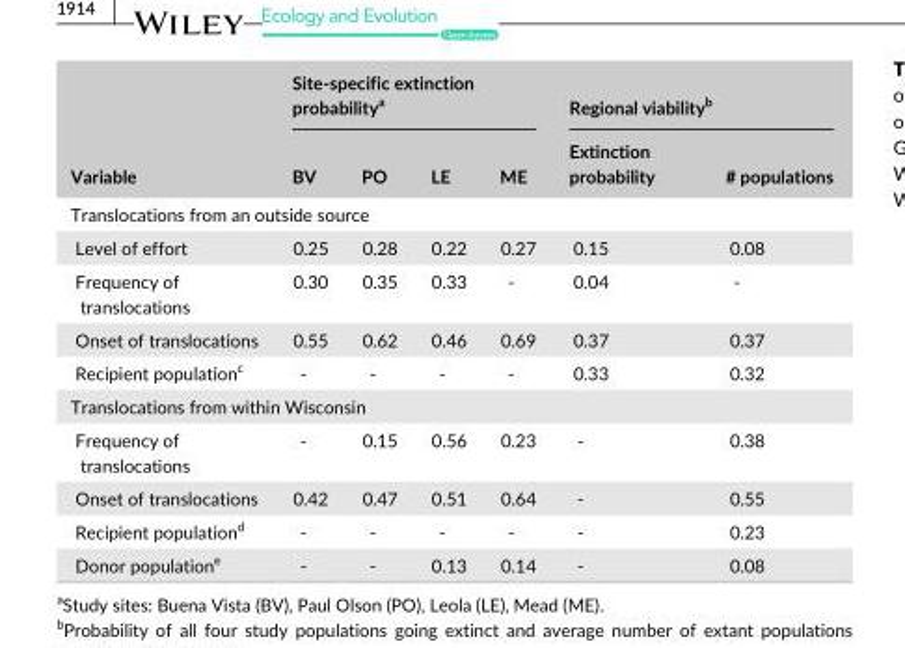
<table><thead><tr><td rowspan="2">Variable</td><td colspan="4">Site- specific extinction probability<sup>a</sup></td><td colspan="2">Regional viability<sup>b</sup></td></tr><tr><td>BV</td><td>PO</td><td>LE</td><td>ME</td><td>Extinction probability</td><td># populations</td></tr></thead><tbody><tr><td colspan="7">Translocations from an outside source</td></tr><tr><td>Level of effort</td><td>0.25</td><td>0.28</td><td>0.22</td><td>0.27</td><td>0.15</td><td>0.08</td></tr><tr><td>Frequency of translocations</td><td>0.30</td><td>0.35</td><td>0.33</td><td>-</td><td>0.04</td><td>-</td></tr><tr><td>Onset of translocations</td><td>0.55</td><td>0.62</td><td>0.46</td><td>0.69</td><td>0.37</td><td>0.37</td></tr><tr><td>Recipient population<sup>c</sup></td><td>-</td><td>-</td><td>-</td><td>-</td><td>0.33</td><td>0.32</td></tr><tr><td colspan="7">Translocations from within Wisconsin</td></tr><tr><td>Frequency of translocations</td><td>-</td><td>0.15</td><td>0.56</td><td>0.23</td><td>-</td><td>0.38</td></tr><tr><td>Onset of translocations</td><td>0.42</td><td>0.47</td><td>0.51</td><td>0.64</td><td>-</td><td>0.55</td></tr><tr><td>Recipient population<sup>d</sup></td><td>-</td><td>-</td><td>-</td><td>-</td><td>-</td><td>0.23</td></tr><tr><td>Donor population<sup>e</sup></td><td>-</td><td>-</td><td>0.13</td><td>0.14</td><td>-</td><td>0.08</td></tr></tbody></table>